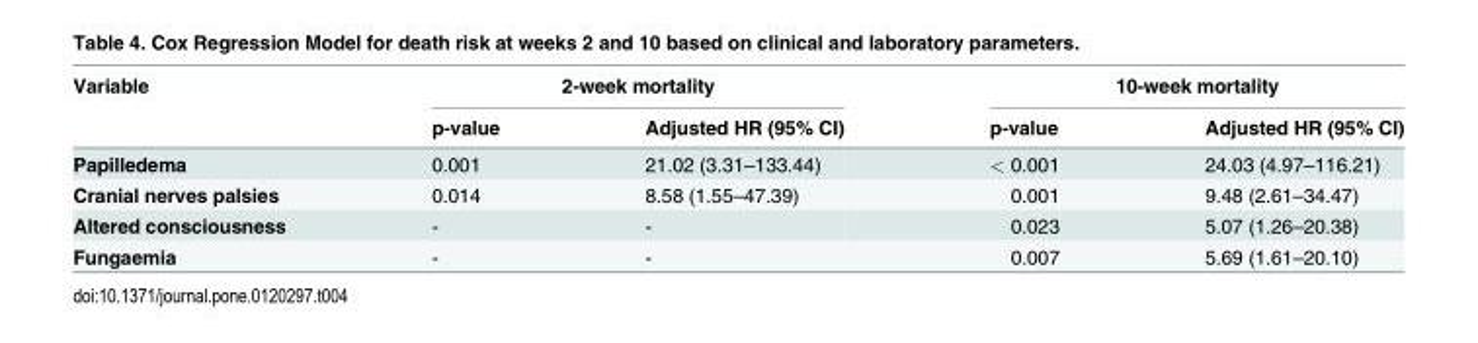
<table><thead><tr><td rowspan="2">Variable</td><td colspan="2">2-week mortality</td><td colspan="2">10-week mortality</td></tr><tr><td>p-value</td><td>Adjusted HR (95% CI)</td><td>p-value</td><td>Adjusted HR (95% CI)</td></tr></thead><tbody><tr><td>Papilledema</td><td>0.001</td><td>21.02 (3.31–133.44)</td><td>&lt; 0.001</td><td>24.03 (4.97–116.21)</td></tr><tr><td>Cranial nerves palsies</td><td>0.014</td><td>8.58 (1.55–47.39)</td><td>0.001</td><td>9.48 (2.61–34.47)</td></tr><tr><td>Altered consciousness</td><td>-</td><td>-</td><td>0.023</td><td>5.07 (1.26–20.38)</td></tr><tr><td>Fungaemia</td><td>-</td><td>-</td><td>0.007</td><td>5.69 (1.61–20.10)</td></tr></tbody></table>